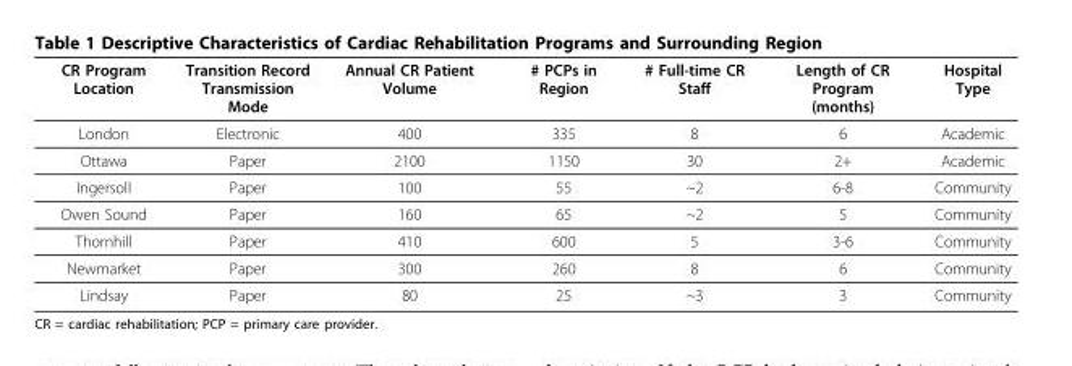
<table><thead><tr><td>CR Program Location</td><td>Transition Record Transmission Mode</td><td>Annual CR Patient Volume</td><td># PCPs in Region</td><td># Full-time CR Staff</td><td>Length of CR Program (months)</td><td>Hospital Type</td></tr></thead><tbody><tr><td>London</td><td>Electronic</td><td>400</td><td>335</td><td>8</td><td>6</td><td>Academic</td></tr><tr><td>Ottawa</td><td>Paper</td><td>2100</td><td>1150</td><td>30</td><td>2+</td><td>Academic</td></tr><tr><td>Ingersoll</td><td>Paper</td><td>100</td><td>55</td><td>~2</td><td>6-8</td><td>Community</td></tr><tr><td>Owen Sound</td><td>Paper</td><td>160</td><td>65</td><td>~2</td><td>5</td><td>Community</td></tr><tr><td>Thornhill</td><td>Paper</td><td>410</td><td>600</td><td>5</td><td>3-6</td><td>Community</td></tr><tr><td>Newmarket</td><td>Paper</td><td>300</td><td>260</td><td>8</td><td>6</td><td>Community</td></tr><tr><td>Lindsay</td><td>Paper</td><td>80</td><td>25</td><td>~3</td><td>3</td><td>Community</td></tr></tbody></table>